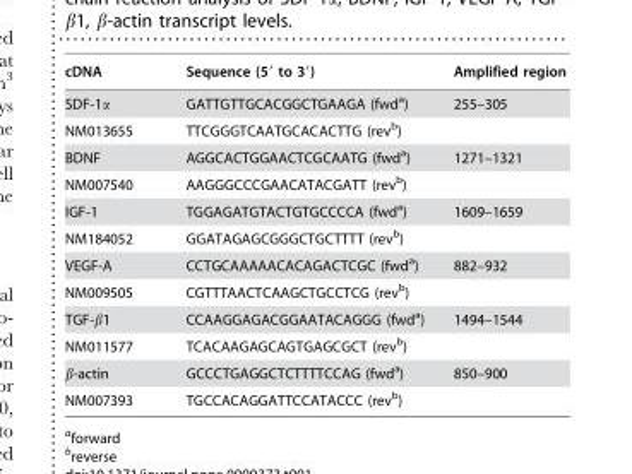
<table><thead><tr><td>cDNA</td><td>Sequence (5′ to 3′)</td><td>Amplified region</td></tr></thead><tbody><tr><td>SDF-1α</td><td>GATTGTTGCACGGCTGAAGA (fwd<sup>a</sup>)</td><td>255–305</td></tr><tr><td>NM013655</td><td>TTCGGGTCAATGCACACTTG (rev<sup>b</sup>)</td><td></td></tr><tr><td>BDNF</td><td>AGGCACTGGAACTCGCAATG (fwd<sup>a</sup>)</td><td>1271–1321</td></tr><tr><td>NM007540</td><td>AAGGGCCCGAACATACGATT (rev<sup>b</sup>)</td><td></td></tr><tr><td>IGF-1</td><td>TGGAGATGTACTGTGCCCCA (fwd<sup>a</sup>)</td><td>1609–1659</td></tr><tr><td>NM184052</td><td>GGATAGAGCGGGCTGCTTTT (rev<sup>b</sup>)</td><td></td></tr><tr><td>VEGF-A</td><td>CCTGCAAAAACACAGACTCGC (fwd<sup>a</sup>)</td><td>882–932</td></tr><tr><td>NM009505</td><td>CGTTTAACTCAAGCTGCCTCG (rev<sup>b</sup>)</td><td></td></tr><tr><td>TGF-β1</td><td>CCAAGGAGACGGAATACAGGG (fwd<sup>a</sup>)</td><td>1494–1544</td></tr><tr><td>NM011577</td><td>TCACAAGAGCAGTGAGCGCT (rev<sup>b</sup>)</td><td></td></tr><tr><td>β-actin</td><td>GCCCTGAGGCTCTTTTCCAG (fwd<sup>a</sup>)</td><td>850–900</td></tr><tr><td>NM007393</td><td>TGCCACAGGATTCCATACCC (rev<sup>b</sup>)</td><td></td></tr></tbody></table>